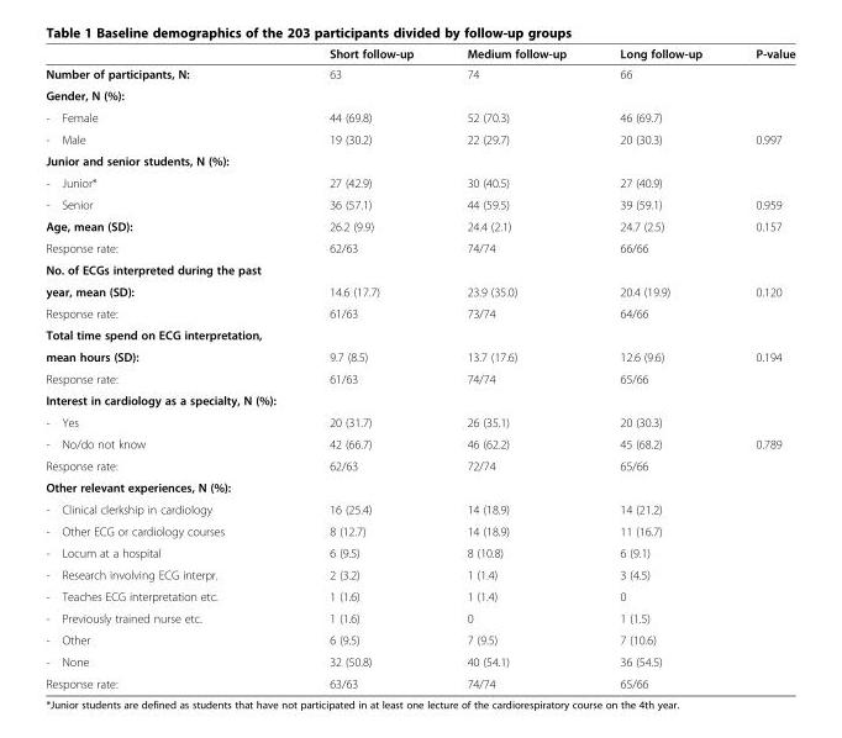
<table><thead><tr><td></td><td>Short follow-up</td><td>Medium follow-up</td><td>Long follow-up</td><td>P-value</td></tr></thead><tbody><tr><td>Number of participants, N:</td><td>63</td><td>74</td><td>66</td><td></td></tr><tr><td colspan="5">Gender, N (%):</td></tr><tr><td>- Female</td><td>44 (69.8)</td><td>52 (70.3)</td><td>46 (69.7)</td><td></td></tr><tr><td>- Male</td><td>19 (30.2)</td><td>22 (29.7)</td><td>20 (30.3)</td><td>0.997</td></tr><tr><td colspan="5">Junior and senior students, N (%):</td></tr><tr><td>- Junior*</td><td>27 (42.9)</td><td>30 (40.5)</td><td>27 (40.9)</td><td></td></tr><tr><td>- Senior</td><td>36 (57.1)</td><td>44 (59.5)</td><td>39 (59.1)</td><td>0.959</td></tr><tr><td>Age, mean (SD):</td><td>26.2 (9.9)</td><td>24.4 (2.1)</td><td>24.7 (2.5)</td><td>0.157</td></tr><tr><td>Response rate:</td><td>62/63</td><td>74/74</td><td>66/66</td><td></td></tr><tr><td colspan="5">No. of ECGs interpreted during the past</td></tr><tr><td>year, mean (SD):</td><td>14.6 (17.7)</td><td>23.9 (35.0)</td><td>20.4 (19.9)</td><td>0.120</td></tr><tr><td>Response rate:</td><td>61/63</td><td>73/74</td><td>64/66</td><td></td></tr><tr><td colspan="5">Total time spend on ECG interpretation,</td></tr><tr><td>mean hours (SD):</td><td>9.7 (8.5)</td><td>13.7 (17.6)</td><td>12.6 (9.6)</td><td>0.194</td></tr><tr><td>Response rate:</td><td>61/63</td><td>74/74</td><td>65/66</td><td></td></tr><tr><td colspan="5">Interest in cardiology as a specialty, N (%):</td></tr><tr><td>- Yes</td><td>20 (31.7)</td><td>26 (35.1)</td><td>20 (30.3)</td><td></td></tr><tr><td>- No/do not know</td><td>42 (66.7)</td><td>46 (62.2)</td><td>45 (68.2)</td><td>0.789</td></tr><tr><td>Response rate:</td><td>62/63</td><td>72/74</td><td>65/66</td><td></td></tr><tr><td colspan="5">Other relevant experiences, N (%):</td></tr><tr><td>- Clinical clerkship in cardiology</td><td>16 (25.4)</td><td>14 (18.9)</td><td>14 (21.2)</td><td></td></tr><tr><td>- Other ECG or cardiology courses</td><td>8 (12.7)</td><td>14 (18.9)</td><td>11 (16.7)</td><td></td></tr><tr><td>- Locum at a hospital</td><td>6 (9.5)</td><td>8 (10.8)</td><td>6 (9.1)</td><td></td></tr><tr><td>- Research involving ECG interpr.</td><td>2 (3.2)</td><td>1 (1.4)</td><td>3 (4.5)</td><td></td></tr><tr><td>- Teaches ECG interpretation etc.</td><td>1 (1.6)</td><td>1 (1.4)</td><td>0</td><td></td></tr><tr><td>- Previously trained nurse etc.</td><td>1 (1.6)</td><td>0</td><td>1 (1.5)</td><td></td></tr><tr><td>- Other</td><td>6 (9.5)</td><td>7 (9.5)</td><td>7 (10.6)</td><td></td></tr><tr><td>- None</td><td>32 (50.8)</td><td>40 (54.1)</td><td>36 (54.5)</td><td></td></tr><tr><td>Response rate:</td><td>63/63</td><td>74/74</td><td>65/66</td><td></td></tr></tbody></table>